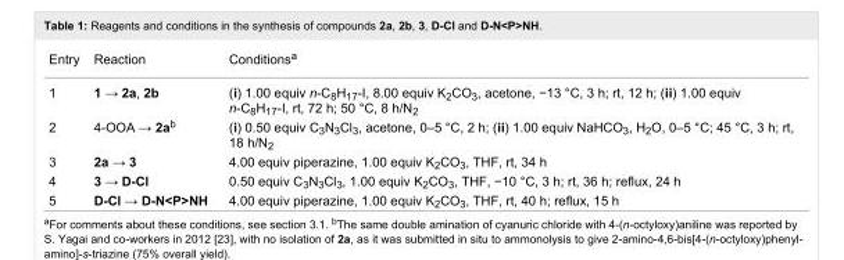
<table><tbody><tr><td>Entry</td><td>Reaction</td><td>Conditions<sup>a</sup></td></tr><tr><td>1</td><td>1 → 2a, 2b</td><td>(i) 1.00 equiv n-C<sub>8</sub>H<sub>17</sub>-I, 8.00 equiv K<sub>2</sub>CO<sub>3</sub>, acetone, −13 °C, 3 h; rt, 12 h; (ii) 1.00 equiv n-C<sub>8</sub>H<sub>17</sub>-I, rt, 72 h; 50 °C, 8 h/N<sub>2</sub></td></tr><tr><td>2</td><td>4-OOA → 2a<sup>b</sup></td><td>(i) 0.50 equiv C<sub>3</sub>N<sub>3</sub>Cl<sub>3</sub>, acetone, 0–5 °C, 2 h; (ii) 1.00 equiv NaHCO<sub>3</sub>, H<sub>2</sub>O, 0–5 °C; 45 °C, 3 h; rt, 18 h/N<sub>2</sub></td></tr><tr><td>3</td><td>2a → 3</td><td>4.00 equiv piperazine, 1.00 equiv K<sub>2</sub>CO<sub>3</sub>, THF, rt, 34 h</td></tr><tr><td>4</td><td>3 → D-Cl</td><td>0.50 equiv C<sub>3</sub>N<sub>3</sub>Cl<sub>3</sub>, 1.00 equiv K<sub>2</sub>CO<sub>3</sub>, THF, −10 °C, 3 h; rt, 36 h; reflux, 24 h</td></tr><tr><td>5</td><td>D-Cl → D-N&lt;P&gt;NH</td><td>4.00 equiv piperazine, 1.00 equiv K<sub>2</sub>CO<sub>3</sub>, THF, rt, 40 h; reflux, 15 h</td></tr></tbody></table>